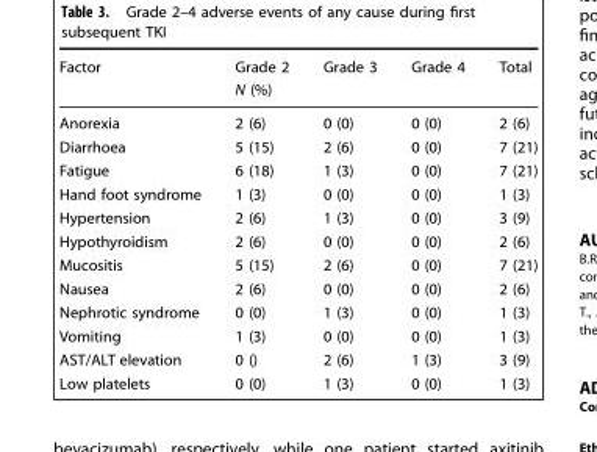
<table><thead><tr><td rowspan="2">Factor</td><td>Grade 2</td><td>Grade 3</td><td>Grade 4</td><td>Total</td></tr><tr><td colspan="4">N (%)</td></tr></thead><tbody><tr><td>Anorexia</td><td>2 (6)</td><td>0 (0)</td><td>0 (0)</td><td>2 (6)</td></tr><tr><td>Diarrhoea</td><td>5 (15)</td><td>2 (6)</td><td>0 (0)</td><td>7 (21)</td></tr><tr><td>Fatigue</td><td>6 (18)</td><td>1 (3)</td><td>0 (0)</td><td>7 (21)</td></tr><tr><td>Hand foot syndrome</td><td>1 (3)</td><td>0 (0)</td><td>0 (0)</td><td>1 (3)</td></tr><tr><td>Hypertension</td><td>2 (6)</td><td>1 (3)</td><td>0 (0)</td><td>3 (9)</td></tr><tr><td>Hypothyroidism</td><td>2 (6)</td><td>0 (0)</td><td>0 (0)</td><td>2 (6)</td></tr><tr><td>Mucositis</td><td>5 (15)</td><td>2 (6)</td><td>0 (0)</td><td>7 (21)</td></tr><tr><td>Nausea</td><td>2 (6)</td><td>0 (0)</td><td>0 (0)</td><td>2 (6)</td></tr><tr><td>Nephrotic syndrome</td><td>0 (0)</td><td>1 (3)</td><td>0 (0)</td><td>1 (3)</td></tr><tr><td>Vomiting</td><td>1 (3)</td><td>0 (0)</td><td>0 (0)</td><td>1 (3)</td></tr><tr><td>AST/ALT elevation</td><td>0 ()</td><td>2 (6)</td><td>1 (3)</td><td>3 (9)</td></tr><tr><td>Low platelets</td><td>0 (0)</td><td>1 (3)</td><td>0 (0)</td><td>1 (3)</td></tr></tbody></table>